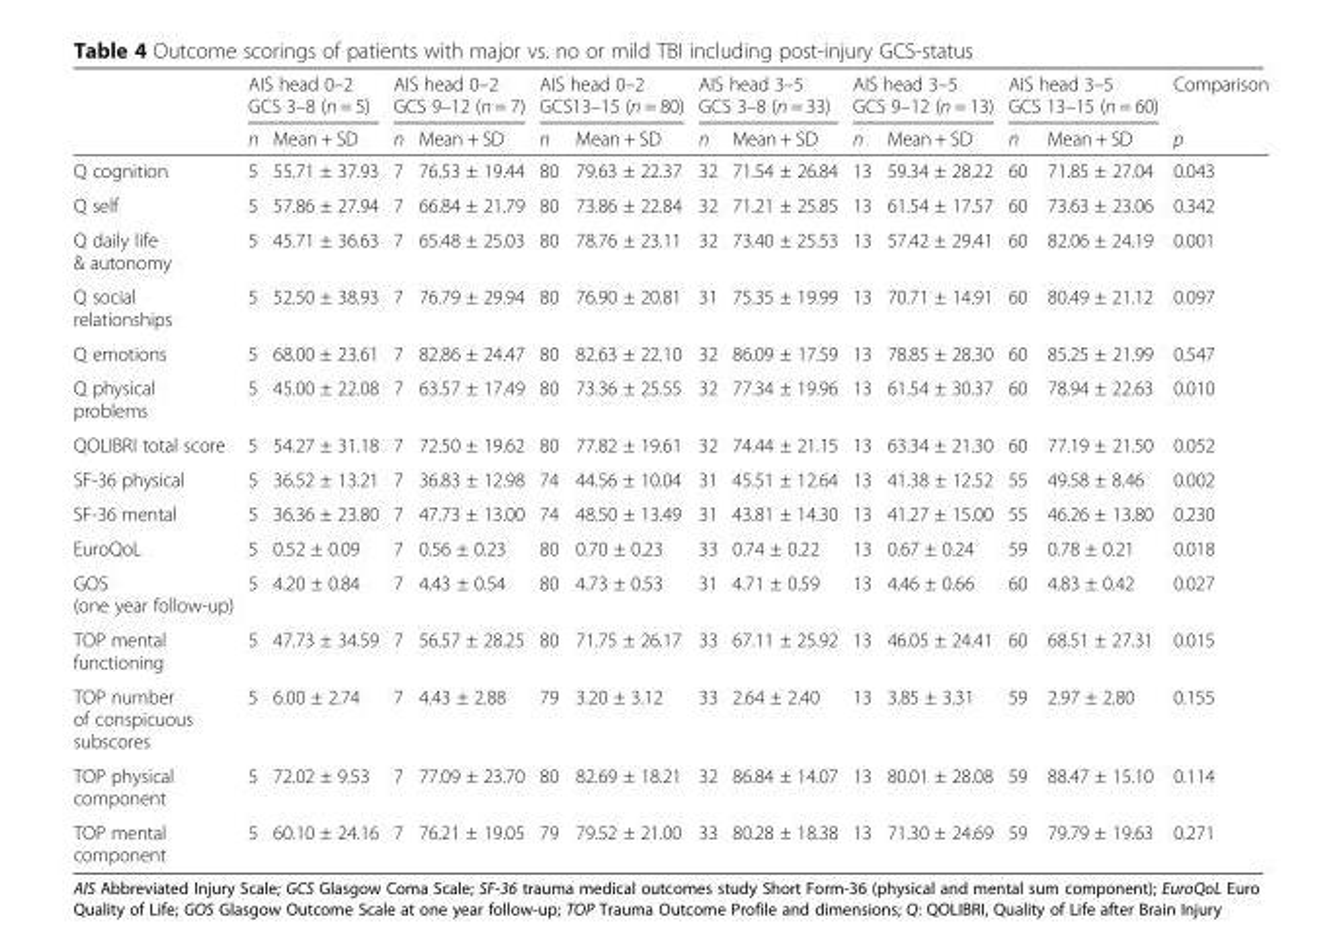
<table><thead><tr><td rowspan="2"></td><td colspan="2">AIS head 0–2 GCS 3–8 (n = 5)</td><td colspan="2">AIS head 0–2 GCS 9–12 (n = 7)</td><td colspan="2">AIS head 0–2 GCS13–15 (n = 80)</td><td colspan="2">AIS head 3–5 GCS 3–8 (n = 33)</td><td colspan="2">AIS head 3–5 GCS 9–12 (n = 13)</td><td colspan="2">AIS head 3–5 GCS 13–15 (n = 60)</td><td rowspan="2">Comparison p</td></tr><tr><td>n</td><td>Mean + SD</td><td>n</td><td>Mean + SD</td><td>n</td><td>Mean + SD</td><td>n</td><td>Mean + SD</td><td>n</td><td>Mean + SD</td><td>n</td><td>Mean + SD</td></tr></thead><tbody><tr><td>Q cognition</td><td>5</td><td>55.71 ± 37.93</td><td>7</td><td>76.53 ± 19.44</td><td>80</td><td>79.63 ± 22.37</td><td>32</td><td>71.54 ± 26.84</td><td>13</td><td>59.34 ± 28.22</td><td>60</td><td>71.85 ± 27.04</td><td>0.043</td></tr><tr><td>Q self</td><td>5</td><td>57.86 ± 27.94</td><td>7</td><td>66.84 ± 21.79</td><td>80</td><td>73.86 ± 22.84</td><td>32</td><td>71.21 ± 25.85</td><td>13</td><td>61.54 ± 17.57</td><td>60</td><td>73.63 ± 23.06</td><td>0.342</td></tr><tr><td>Q daily life &amp; autonomy</td><td>5</td><td>45.71 ± 36.63</td><td>7</td><td>65.48 ± 25.03</td><td>80</td><td>78.76 ± 23.11</td><td>32</td><td>73.40 ± 25.53</td><td>13</td><td>57.42 ± 29.41</td><td>60</td><td>82.06 ± 24.19</td><td>0.001</td></tr><tr><td>Q social relationships</td><td>5</td><td>52.50 ± 38.93</td><td>7</td><td>76.79 ± 29.94</td><td>80</td><td>76.90 ± 20.81</td><td>31</td><td>75.35 ± 19.99</td><td>13</td><td>70.71 ± 14.91</td><td>60</td><td>80.49 ± 21.12</td><td>0.097</td></tr><tr><td>Q emotions</td><td>5</td><td>68.00 ± 23.61</td><td>7</td><td>82.86 ± 24.47</td><td>80</td><td>82.63 ± 22.10</td><td>32</td><td>86.09 ± 17.59</td><td>13</td><td>78.85 ± 28.30</td><td>60</td><td>85.25 ± 21.99</td><td>0.547</td></tr><tr><td>Q physical problems</td><td>5</td><td>45.00 ± 22.08</td><td>7</td><td>63.57 ± 17.49</td><td>80</td><td>73.36 ± 25.55</td><td>32</td><td>77.34 ± 19.96</td><td>13</td><td>61.54 ± 30.37</td><td>60</td><td>78.94 ± 22.63</td><td>0.010</td></tr><tr><td>QOLIBRI total score</td><td>5</td><td>54.27 ± 31.18</td><td>7</td><td>72.50 ± 19.62</td><td>80</td><td>77.82 ± 19.61</td><td>32</td><td>74.44 ± 21.15</td><td>13</td><td>63.34 ± 21.30</td><td>60</td><td>77.19 ± 21.50</td><td>0.052</td></tr><tr><td>SF-36 physical</td><td>5</td><td>36.52 ± 13.21</td><td>7</td><td>36.83 ± 12.98</td><td>74</td><td>44.56 ± 10.04</td><td>31</td><td>45.51 ± 12.64</td><td>13</td><td>41.38 ± 12.52</td><td>55</td><td>49.58 ± 8.46</td><td>0.002</td></tr><tr><td>SF-36 mental</td><td>5</td><td>36.36 ± 23.80</td><td>7</td><td>47.73 ± 13.00</td><td>74</td><td>48.50 ± 13.49</td><td>31</td><td>43.81 ± 14.30</td><td>13</td><td>41.27 ± 15.00</td><td>55</td><td>46.26 ± 13.80</td><td>0.230</td></tr><tr><td>EuroQoL</td><td>5</td><td>0.52 ± 0.09</td><td>7</td><td>0.56 ± 0.23</td><td>80</td><td>0.70 ± 0.23</td><td>33</td><td>0.74 ± 0.22</td><td>13</td><td>0.67 ± 0.24</td><td>59</td><td>0.78 ± 0.21</td><td>0.018</td></tr><tr><td>GOS (one year follow-up)</td><td>5</td><td>4.20 ± 0.84</td><td>7</td><td>4.43 ± 0.54</td><td>80</td><td>4.73 ± 0.53</td><td>31</td><td>4.71 ± 0.59</td><td>13</td><td>4.46 ± 0.66</td><td>60</td><td>4.83 ± 0.42</td><td>0.027</td></tr><tr><td>TOP mental functioning</td><td>5</td><td>47.73 ± 34.59</td><td>7</td><td>56.57 ± 28.25</td><td>80</td><td>71.75 ± 26.17</td><td>33</td><td>67.11 ± 25.92</td><td>13</td><td>46.05 ± 24.41</td><td>60</td><td>68.51 ± 27.31</td><td>0.015</td></tr><tr><td>TOP number of conspicuous subscores</td><td>5</td><td>6.00 ± 2.74</td><td>7</td><td>4.43 ± 2.88</td><td>79</td><td>3.20 ± 3.12</td><td>33</td><td>2.64 ± 2.40</td><td>13</td><td>3.85 ± 3.31</td><td>59</td><td>2.97 ± 2.80</td><td>0.155</td></tr><tr><td>TOP physical component</td><td>5</td><td>72.02 ± 9.53</td><td>7</td><td>77.09 ± 23.70</td><td>80</td><td>82.69 ± 18.21</td><td>32</td><td>86.84 ± 14.07</td><td>13</td><td>80.01 ± 28.08</td><td>59</td><td>88.47 ± 15.10</td><td>0.114</td></tr><tr><td>TOP mental component</td><td>5</td><td>60.10 ± 24.16</td><td>7</td><td>76.21 ± 19.05</td><td>79</td><td>79.52 ± 21.00</td><td>33</td><td>80.28 ± 18.38</td><td>13</td><td>71.30 ± 24.69</td><td>59</td><td>79.79 ± 19.63</td><td>0.271</td></tr></tbody></table>